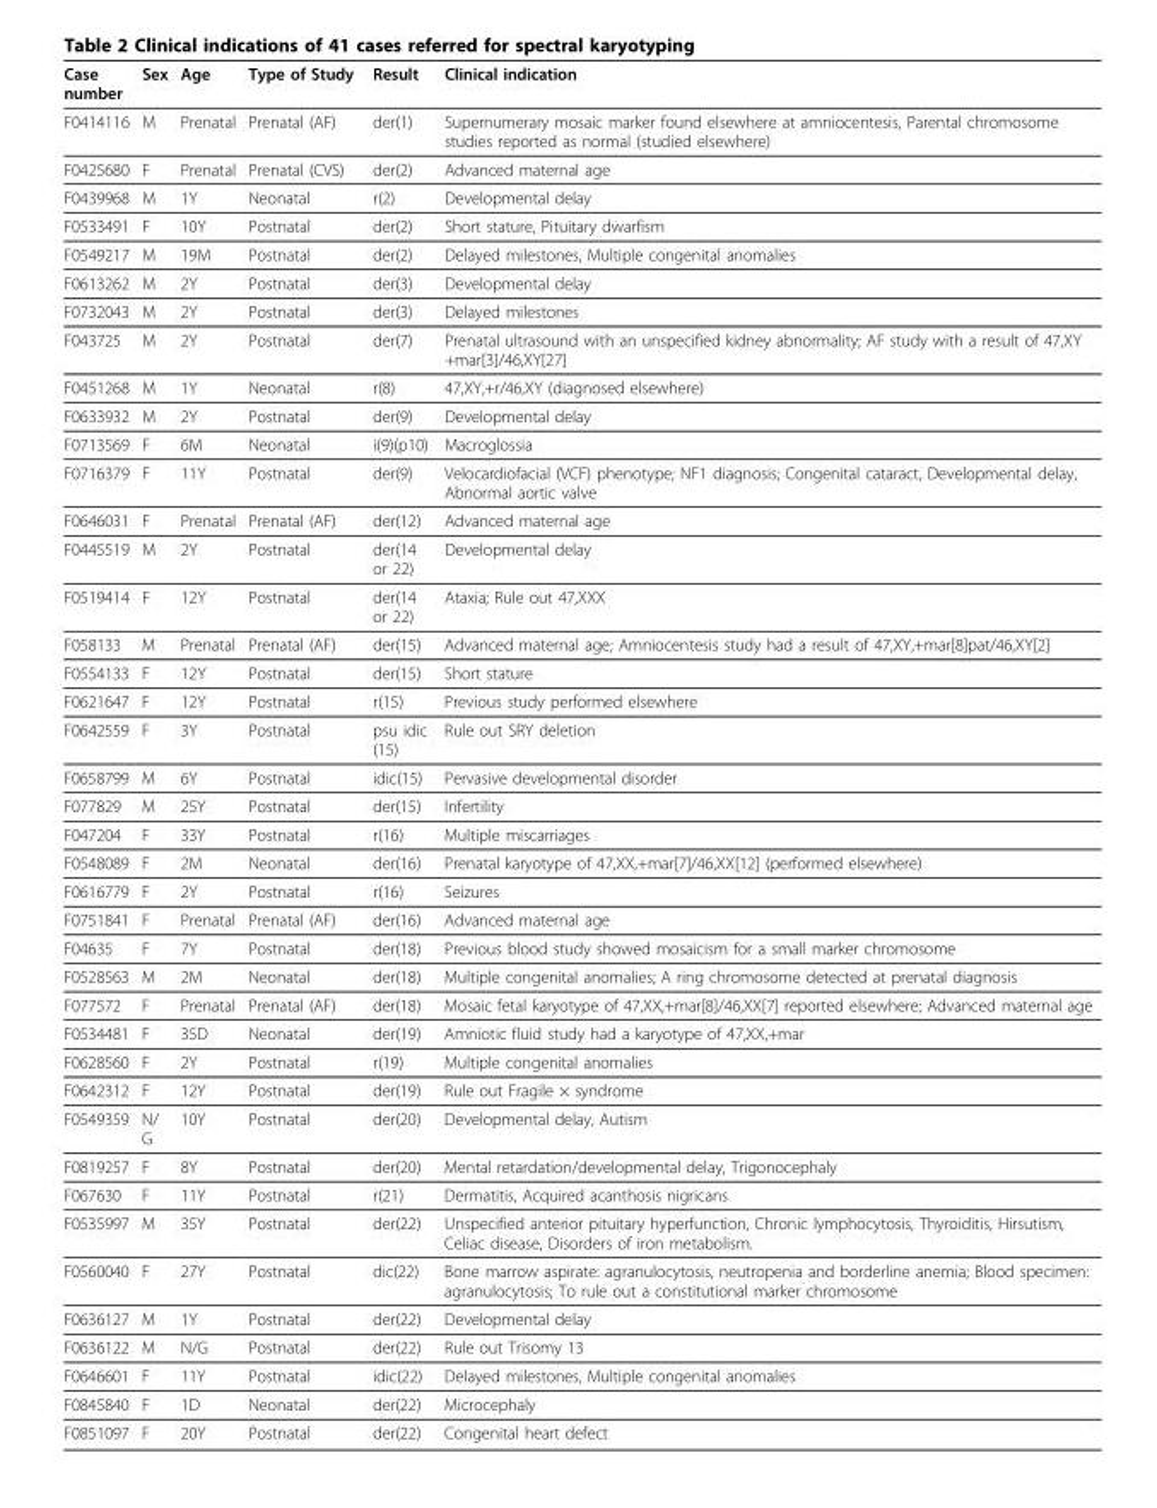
<table><thead><tr><td>Case number</td><td>Sex</td><td>Age</td><td>Type of Study</td><td>Result</td><td>Clinical indication</td></tr></thead><tbody><tr><td>F0414116</td><td>M</td><td>Prenatal</td><td>Prenatal (AF)</td><td>der(1)</td><td>Supernumerary mosaic marker found elsewhere at amniocentesis, Parental chromosome studies reported as normal (studied elsewhere)</td></tr><tr><td>F0425680</td><td>F</td><td>Prenatal</td><td>Prenatal (CVS)</td><td>der(2)</td><td>Advanced maternal age</td></tr><tr><td>F0439968</td><td>M</td><td>1Y</td><td>Neonatal</td><td>r(2)</td><td>Developmental delay</td></tr><tr><td>F0533491</td><td>F</td><td>10Y</td><td>Postnatal</td><td>der(2)</td><td>Short stature, Pituitary dwarfism</td></tr><tr><td>F0549217</td><td>M</td><td>19M</td><td>Postnatal</td><td>der(2)</td><td>Delayed milestones, Multiple congenital anomalies</td></tr><tr><td>F0613262</td><td>M</td><td>2Y</td><td>Postnatal</td><td>der(3)</td><td>Developmental delay</td></tr><tr><td>F0732043</td><td>M</td><td>2Y</td><td>Postnatal</td><td>der(3)</td><td>Delayed milestones</td></tr><tr><td>F043725</td><td>M</td><td>2Y</td><td>Postnatal</td><td>der(7)</td><td>Prenatal ultrasound with an unspecified kidney abnormality; AF study with a result of 47,XY +mar[3]/46,XY[27]</td></tr><tr><td>F0451268</td><td>M</td><td>1Y</td><td>Neonatal</td><td>r(8)</td><td>47,XY,+r/46,XY (diagnosed elsewhere)</td></tr><tr><td>F0633932</td><td>M</td><td>2Y</td><td>Postnatal</td><td>der(9)</td><td>Developmental delay</td></tr><tr><td>F0713569</td><td>F</td><td>6M</td><td>Neonatal</td><td>i(9)(p10)</td><td>Macroglossia</td></tr><tr><td>F0716379</td><td>F</td><td>11Y</td><td>Postnatal</td><td>der(9)</td><td>Velocardiofacial (VCF) phenotype; NF1 diagnosis; Congenital cataract, Developmental delay, Abnormal aortic valve</td></tr><tr><td>F0646031</td><td>F</td><td>Prenatal</td><td>Prenatal (AF)</td><td>der(12)</td><td>Advanced maternal age</td></tr><tr><td>F0445519</td><td>M</td><td>2Y</td><td>Postnatal</td><td>der(14 or 22)</td><td>Developmental delay</td></tr><tr><td>F0519414</td><td>F</td><td>12Y</td><td>Postnatal</td><td>der(14 or 22)</td><td>Ataxia; Rule out 47,XXX</td></tr><tr><td>F058133</td><td>M</td><td>Prenatal</td><td>Prenatal (AF)</td><td>der(15)</td><td>Advanced maternal age; Amniocentesis study had a result of 47,XY,+mar[8]pat/46,XY[2]</td></tr><tr><td>F0554133</td><td>F</td><td>12Y</td><td>Postnatal</td><td>der(15)</td><td>Short stature</td></tr><tr><td>F0621647</td><td>F</td><td>12Y</td><td>Postnatal</td><td>r(15)</td><td>Previous study performed elsewhere</td></tr><tr><td>F0642559</td><td>F</td><td>3Y</td><td>Postnatal</td><td>psu idic (15)</td><td>Rule out SRY deletion</td></tr><tr><td>F0658799</td><td>M</td><td>6Y</td><td>Postnatal</td><td>idic(15)</td><td>Pervasive developmental disorder</td></tr><tr><td>F077829</td><td>M</td><td>25Y</td><td>Postnatal</td><td>der(15)</td><td>Infertility</td></tr><tr><td>F047204</td><td>F</td><td>33Y</td><td>Postnatal</td><td>r(16)</td><td>Multiple miscarriages</td></tr><tr><td>F0548089</td><td>F</td><td>2M</td><td>Neonatal</td><td>der(16)</td><td>Prenatal karyotype of 47,XX,+mar[7]/46,XX[12] (performed elsewhere)</td></tr><tr><td>F0616779</td><td>F</td><td>2Y</td><td>Postnatal</td><td>r(16)</td><td>Seizures</td></tr><tr><td>F0751841</td><td>F</td><td>Prenatal</td><td>Prenatal (AF)</td><td>der(16)</td><td>Advanced maternal age</td></tr><tr><td>F04635</td><td>F</td><td>7Y</td><td>Postnatal</td><td>der(18)</td><td>Previous blood study showed mosaicism for a small marker chromosome</td></tr><tr><td>F0528563</td><td>M</td><td>2M</td><td>Neonatal</td><td>der(18)</td><td>Multiple congenital anomalies; A ring chromosome detected at prenatal diagnosis</td></tr><tr><td>F077572</td><td>F</td><td>Prenatal</td><td>Prenatal (AF)</td><td>der(18)</td><td>Mosaic fetal karyotype of 47,XX,+mar[8]/46,XX[7] reported elsewhere; Advanced maternal age</td></tr><tr><td>F0534481</td><td>F</td><td>35D</td><td>Neonatal</td><td>der(19)</td><td>Amniotic fluid study had a karyotype of 47,XX,+mar</td></tr><tr><td>F0628560</td><td>F</td><td>2Y</td><td>Postnatal</td><td>r(19)</td><td>Multiple congenital anomalies</td></tr><tr><td>F0642312</td><td>F</td><td>12Y</td><td>Postnatal</td><td>der(19)</td><td>Rule out Fragile × syndrome</td></tr><tr><td>F0549359</td><td>N/ G</td><td>10Y</td><td>Postnatal</td><td>der(20)</td><td>Developmental delay, Autism</td></tr><tr><td>F0819257</td><td>F</td><td>8Y</td><td>Postnatal</td><td>der(20)</td><td>Mental retardation/developmental delay, Trigonocephaly</td></tr><tr><td>F067630</td><td>F</td><td>11Y</td><td>Postnatal</td><td>r(21)</td><td>Dermatitis, Acquired acanthosis nigricans</td></tr><tr><td>F0535997</td><td>M</td><td>35Y</td><td>Postnatal</td><td>der(22)</td><td>Unspecified anterior pituitary hyperfunction, Chronic lymphocytosis, Thyroiditis, Hirsutism, Celiac disease, Disorders of iron metabolism.</td></tr><tr><td>F0560040</td><td>F</td><td>27Y</td><td>Postnatal</td><td>dic(22)</td><td>Bone marrow aspirate: agranulocytosis, neutropenia and borderline anemia; Blood specimen: agranulocytosis; To rule out a constitutional marker chromosome</td></tr><tr><td>F0636127</td><td>M</td><td>1Y</td><td>Postnatal</td><td>der(22)</td><td>Developmental delay</td></tr><tr><td>F0636122</td><td>M</td><td>N/G</td><td>Postnatal</td><td>der(22)</td><td>Rule out Trisomy 13</td></tr><tr><td>F0646601</td><td>F</td><td>11Y</td><td>Postnatal</td><td>idic(22)</td><td>Delayed milestones, Multiple congenital anomalies</td></tr><tr><td>F0845840</td><td>F</td><td>1D</td><td>Neonatal</td><td>der(22)</td><td>Microcephaly</td></tr><tr><td>F0851097</td><td>F</td><td>20Y</td><td>Postnatal</td><td>der(22)</td><td>Congenital heart defect</td></tr></tbody></table>